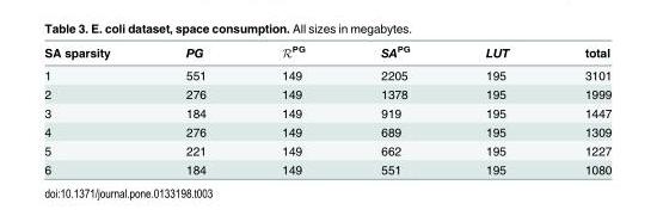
<table><thead><tr><td>SA sparsity</td><td>PG</td><td>R<sup>PG</sup></td><td>SA<sup>PG</sup></td><td>LUT</td><td>total</td></tr></thead><tbody><tr><td>1</td><td>551</td><td>149</td><td>2205</td><td>195</td><td>3101</td></tr><tr><td>2</td><td>276</td><td>149</td><td>1378</td><td>195</td><td>1999</td></tr><tr><td>3</td><td>184</td><td>149</td><td>919</td><td>195</td><td>1447</td></tr><tr><td>4</td><td>276</td><td>149</td><td>689</td><td>195</td><td>1309</td></tr><tr><td>5</td><td>221</td><td>149</td><td>662</td><td>195</td><td>1227</td></tr><tr><td>6</td><td>184</td><td>149</td><td>551</td><td>195</td><td>1080</td></tr></tbody></table>